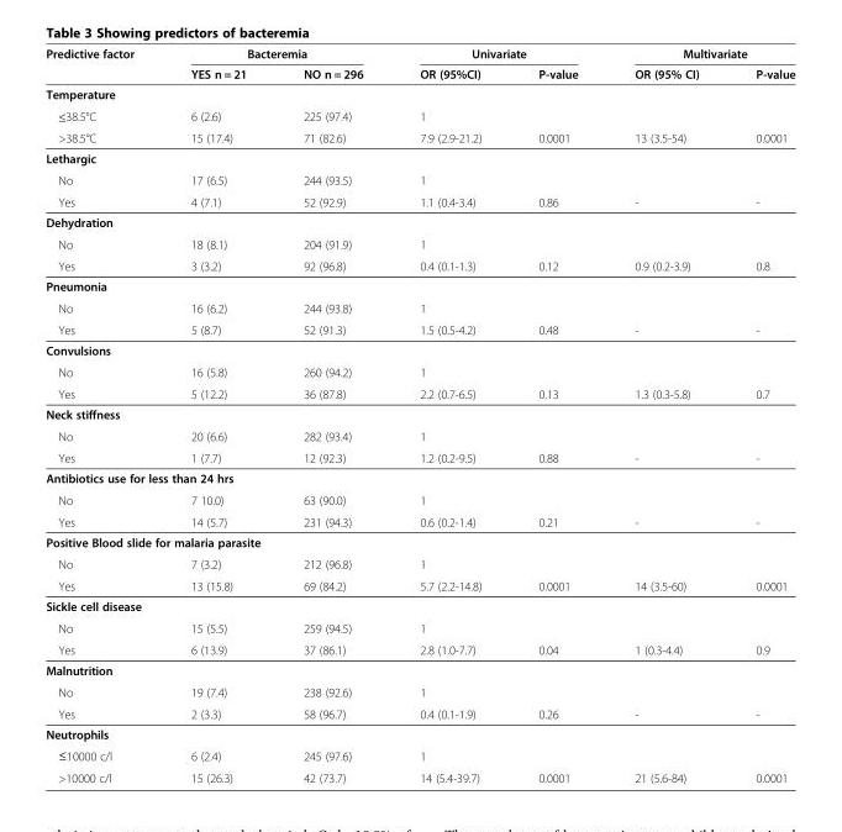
<table><thead><tr><td rowspan="2">Predictive factor</td><td colspan="2">Bacteremia</td><td colspan="2">Univariate</td><td colspan="2">Multivariate</td></tr><tr><td>YES n = 21</td><td>NO n = 296</td><td>OR (95%CI)</td><td>P-value</td><td>OR (95% CI)</td><td>P-value</td></tr></thead><tbody><tr><td colspan="7">Temperature</td></tr><tr><td>≤38.5°C</td><td>6 (2.6)</td><td>225 (97.4)</td><td>1</td><td></td><td></td><td></td></tr><tr><td>&gt;38.5°C</td><td>15 (17.4)</td><td>71 (82.6)</td><td>7.9 (2.9-21.2)</td><td>0.0001</td><td>13 (3.5-54)</td><td>0.0001</td></tr><tr><td colspan="7">Lethargic</td></tr><tr><td>No</td><td>17 (6.5)</td><td>244 (93.5)</td><td>1</td><td></td><td></td><td></td></tr><tr><td>Yes</td><td>4 (7.1)</td><td>52 (92.9)</td><td>1.1 (0.4-3.4)</td><td>0.86</td><td>-</td><td>-</td></tr><tr><td colspan="7">Dehydration</td></tr><tr><td>No</td><td>18 (8.1)</td><td>204 (91.9)</td><td>1</td><td></td><td></td><td></td></tr><tr><td>Yes</td><td>3 (3.2)</td><td>92 (96.8)</td><td>0.4 (0.1-1.3)</td><td>0.12</td><td>0.9 (0.2-3.9)</td><td>0.8</td></tr><tr><td colspan="7">Pneumonia</td></tr><tr><td>No</td><td>16 (6.2)</td><td>244 (93.8)</td><td>1</td><td></td><td></td><td></td></tr><tr><td>Yes</td><td>5 (8.7)</td><td>52 (91.3)</td><td>1.5 (0.5-4.2)</td><td>0.48</td><td>-</td><td>-</td></tr><tr><td colspan="7">Convulsions</td></tr><tr><td>No</td><td>16 (5.8)</td><td>260 (94.2)</td><td>1</td><td></td><td></td><td></td></tr><tr><td>Yes</td><td>5 (12.2)</td><td>36 (87.8)</td><td>2.2 (0.7-6.5)</td><td>0.13</td><td>1.3 (0.3-5.8)</td><td>0.7</td></tr><tr><td colspan="7">Neck stiffness</td></tr><tr><td>No</td><td>20 (6.6)</td><td>282 (93.4)</td><td>1</td><td></td><td></td><td></td></tr><tr><td>Yes</td><td>1 (7.7)</td><td>12 (92.3)</td><td>1.2 (0.2-9.5)</td><td>0.88</td><td>-</td><td>-</td></tr><tr><td colspan="7">Antibiotics use for less than 24 hrs</td></tr><tr><td>No</td><td>7 10.0)</td><td>63 (90.0)</td><td>1</td><td></td><td></td><td></td></tr><tr><td>Yes</td><td>14 (5.7)</td><td>231 (94.3)</td><td>0.6 (0.2-1.4)</td><td>0.21</td><td>-</td><td>-</td></tr><tr><td colspan="7">Positive Blood slide for malaria parasite</td></tr><tr><td>No</td><td>7 (3.2)</td><td>212 (96.8)</td><td>1</td><td></td><td></td><td></td></tr><tr><td>Yes</td><td>13 (15.8)</td><td>69 (84.2)</td><td>5.7 (2.2-14.8)</td><td>0.0001</td><td>14 (3.5-60)</td><td>0.0001</td></tr><tr><td colspan="7">Sickle cell disease</td></tr><tr><td>No</td><td>15 (5.5)</td><td>259 (94.5)</td><td>1</td><td></td><td></td><td></td></tr><tr><td>Yes</td><td>6 (13.9)</td><td>37 (86.1)</td><td>2.8 (1.0-7.7)</td><td>0.04</td><td>1 (0.3-4.4)</td><td>0.9</td></tr><tr><td colspan="7">Malnutrition</td></tr><tr><td>No</td><td>19 (7.4)</td><td>238 (92.6)</td><td>1</td><td></td><td></td><td></td></tr><tr><td>Yes</td><td>2 (3.3)</td><td>58 (96.7)</td><td>0.4 (0.1-1.9)</td><td>0.26</td><td>-</td><td>-</td></tr><tr><td colspan="7">Neutrophils</td></tr><tr><td>≤10000 c/l</td><td>6 (2.4)</td><td>245 (97.6)</td><td>1</td><td></td><td></td><td></td></tr><tr><td>&gt;10000 c/l</td><td>15 (26.3)</td><td>42 (73.7)</td><td>14 (5.4-39.7)</td><td>0.0001</td><td>21 (5.6-84)</td><td>0.0001</td></tr></tbody></table>